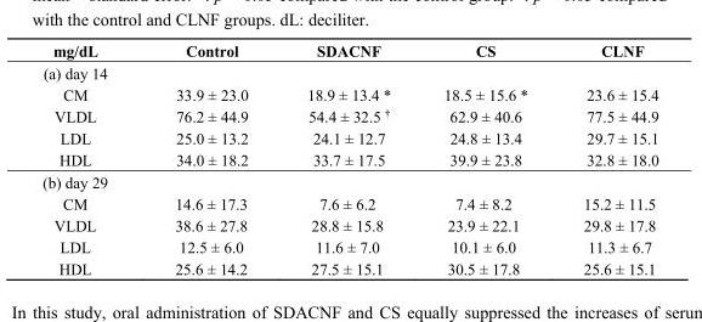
<table><thead><tr><td>mg/dL</td><td>Control</td><td>SDACNF</td><td>CS</td><td>CLNF</td></tr></thead><tbody><tr><td colspan="5">(a) day 14</td></tr><tr><td>CM</td><td>33.9 ± 23.0</td><td>18.9 ± 13.4 *</td><td>18.5 ± 15.6 *</td><td>23.6 ± 15.4</td></tr><tr><td>VLDL</td><td>76.2 ± 44.9</td><td>54.4 ± 32.5 <sup>†</sup></td><td>62.9 ± 40.6</td><td>77.5 ± 44.9</td></tr><tr><td>LDL</td><td>25.0 ± 13.2</td><td>24.1 ± 12.7</td><td>24.8 ± 13.4</td><td>29.7 ± 15.1</td></tr><tr><td>HDL</td><td>34.0 ± 18.2</td><td>33.7 ± 17.5</td><td>39.9 ± 23.8</td><td>32.8 ± 18.0</td></tr><tr><td colspan="5">(b) day 29</td></tr><tr><td>CM</td><td>14.6 ± 17.3</td><td>7.6 ± 6.2</td><td>7.4 ± 8.2</td><td>15.2 ± 11.5</td></tr><tr><td>VLDL</td><td>38.6 ± 27.8</td><td>28.8 ± 15.8</td><td>23.9 ± 22.1</td><td>29.8 ± 17.8</td></tr><tr><td>LDL</td><td>12.5 ± 6.0</td><td>11.6 ± 7.0</td><td>10.1 ± 6.0</td><td>11.3 ± 6.7</td></tr><tr><td>HDL</td><td>25.6 ± 14.2</td><td>27.5 ± 15.1</td><td>30.5 ± 17.8</td><td>25.6 ± 15.1</td></tr></tbody></table>